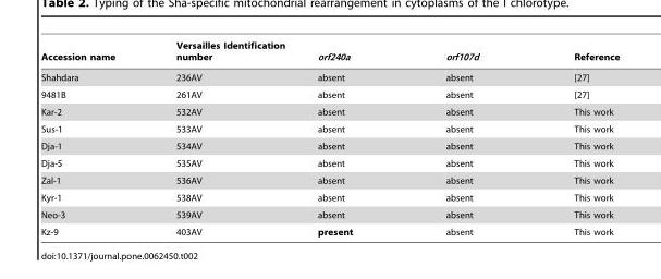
<table><thead><tr><td>Accession name</td><td>Versailles Identification number</td><td>orf240a</td><td>orf107d</td><td>Reference</td></tr></thead><tbody><tr><td>Shahdara</td><td>236AV</td><td>absent</td><td>absent</td><td>[27]</td></tr><tr><td>9481B</td><td>261AV</td><td>absent</td><td>absent</td><td>[27]</td></tr><tr><td>Kar-2</td><td>532AV</td><td>absent</td><td>absent</td><td>This work</td></tr><tr><td>Sus-1</td><td>533AV</td><td>absent</td><td>absent</td><td>This work</td></tr><tr><td>Dja-1</td><td>534AV</td><td>absent</td><td>absent</td><td>This work</td></tr><tr><td>Dja-5</td><td>535AV</td><td>absent</td><td>absent</td><td>This work</td></tr><tr><td>Zal-1</td><td>536AV</td><td>absent</td><td>absent</td><td>This work</td></tr><tr><td>Kyr-1</td><td>538AV</td><td>absent</td><td>absent</td><td>This work</td></tr><tr><td>Neo-3</td><td>539AV</td><td>absent</td><td>absent</td><td>This work</td></tr><tr><td>Kz-9</td><td>403AV</td><td>present</td><td>absent</td><td>This work</td></tr></tbody></table>